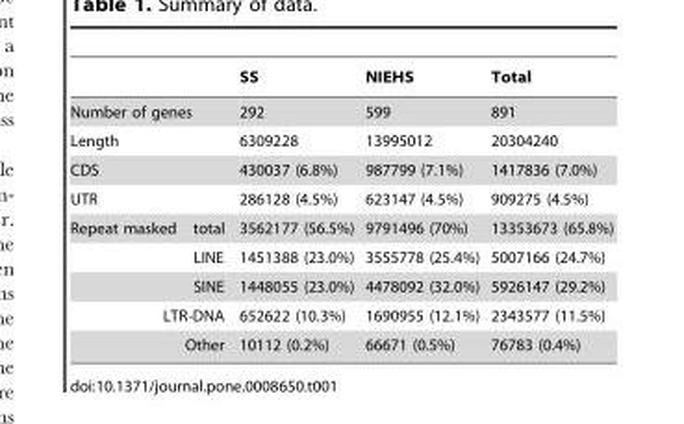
<table><thead><tr><td></td><td>SS</td><td>NIEHS</td><td>Total</td></tr></thead><tbody><tr><td>Number of genes</td><td>292</td><td>599</td><td>891</td></tr><tr><td>Length</td><td>6309228</td><td>13995012</td><td>20304240</td></tr><tr><td>CDS</td><td>430037 (6.8%)</td><td>987799 (7.1%)</td><td>1417836 (7.0%)</td></tr><tr><td>UTR</td><td>286128 (4.5%)</td><td>623147 (4.5%)</td><td>909275 (4.5%)</td></tr><tr><td>Repeat masked total</td><td>3562177 (56.5%)</td><td>9791496 (70%)</td><td>13353673 (65.8%)</td></tr><tr><td>LINE</td><td>1451388 (23.0%)</td><td>3555778 (25.4%)</td><td>5007166 (24.7%)</td></tr><tr><td>SINE</td><td>1448055 (23.0%)</td><td>4478092 (32.0%)</td><td>5926147 (29.2%)</td></tr><tr><td>LTR-DNA</td><td>652622 (10.3%)</td><td>1690955 (12.1%)</td><td>2343577 (11.5%)</td></tr><tr><td>Other</td><td>10112 (0.2%)</td><td>66671 (0.5%)</td><td>76783 (0.4%)</td></tr></tbody></table>